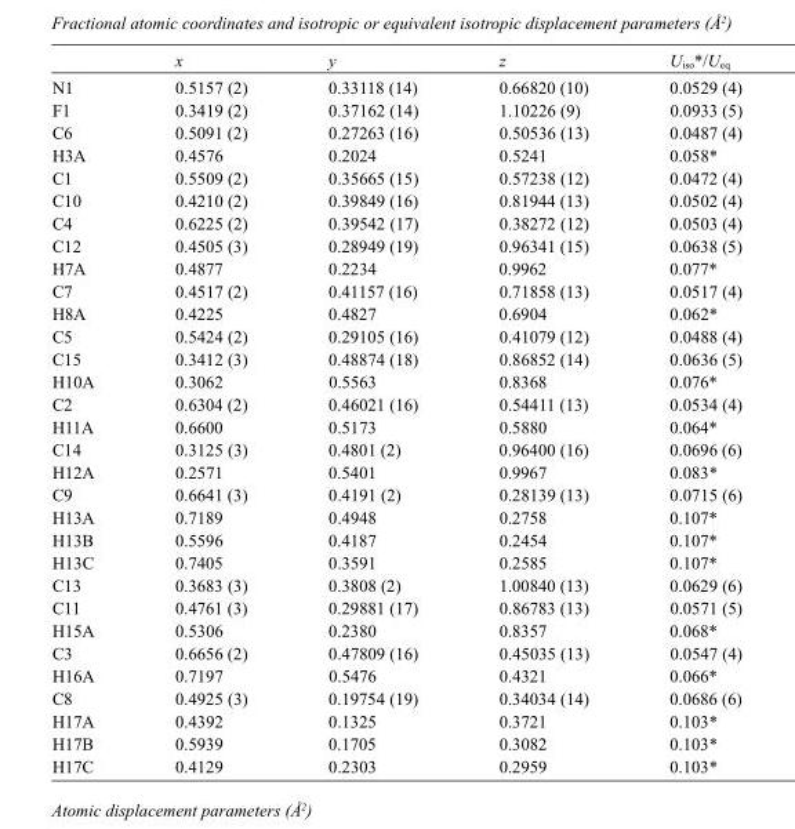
<table><thead><tr><td></td><td>x</td><td>y</td><td>z</td><td>U<sub>iso</sub>*/U<sub>eq</sub></td></tr></thead><tbody><tr><td>N1</td><td>0.5157 (2)</td><td>0.33118 (14)</td><td>0.66820 (10)</td><td>0.0529 (4)</td></tr><tr><td>F1</td><td>0.3419 (2)</td><td>0.37162 (14)</td><td>1.10226 (9)</td><td>0.0933 (5)</td></tr><tr><td>C6</td><td>0.5091 (2)</td><td>0.27263 (16)</td><td>0.50536 (13)</td><td>0.0487 (4)</td></tr><tr><td>H3A</td><td>0.4576</td><td>0.2024</td><td>0.5241</td><td>0.058*</td></tr><tr><td>C1</td><td>0.5509 (2)</td><td>0.35665 (15)</td><td>0.57238 (12)</td><td>0.0472 (4)</td></tr><tr><td>C10</td><td>0.4210 (2)</td><td>0.39849 (16)</td><td>0.81944 (13)</td><td>0.0502 (4)</td></tr><tr><td>C4</td><td>0.6225 (2)</td><td>0.39542 (17)</td><td>0.38272 (12)</td><td>0.0503 (4)</td></tr><tr><td>C12</td><td>0.4505 (3)</td><td>0.28949 (19)</td><td>0.96341 (15)</td><td>0.0638 (5)</td></tr><tr><td>H7A</td><td>0.4877</td><td>0.2234</td><td>0.9962</td><td>0.077*</td></tr><tr><td>C7</td><td>0.4517 (2)</td><td>0.41157 (16)</td><td>0.71858 (13)</td><td>0.0517 (4)</td></tr><tr><td>H8A</td><td>0.4225</td><td>0.4827</td><td>0.6904</td><td>0.062*</td></tr><tr><td>C5</td><td>0.5424 (2)</td><td>0.29105 (16)</td><td>0.41079 (12)</td><td>0.0488 (4)</td></tr><tr><td>C15</td><td>0.3412 (3)</td><td>0.48874 (18)</td><td>0.86852 (14)</td><td>0.0636 (5)</td></tr><tr><td>H10A</td><td>0.3062</td><td>0.5563</td><td>0.8368</td><td>0.076*</td></tr><tr><td>C2</td><td>0.6304 (2)</td><td>0.46021 (16)</td><td>0.54411 (13)</td><td>0.0534 (4)</td></tr><tr><td>H11A</td><td>0.6600</td><td>0.5173</td><td>0.5880</td><td>0.064*</td></tr><tr><td>C14</td><td>0.3125 (3)</td><td>0.4801 (2)</td><td>0.96400 (16)</td><td>0.0696 (6)</td></tr><tr><td>H12A</td><td>0.2571</td><td>0.5401</td><td>0.9967</td><td>0.083*</td></tr><tr><td>C9</td><td>0.6641 (3)</td><td>0.4191 (2)</td><td>0.28139 (13)</td><td>0.0715 (6)</td></tr><tr><td>H13A</td><td>0.7189</td><td>0.4948</td><td>0.2758</td><td>0.107*</td></tr><tr><td>H13B</td><td>0.5596</td><td>0.4187</td><td>0.2454</td><td>0.107*</td></tr><tr><td>H13C</td><td>0.7405</td><td>0.3591</td><td>0.2585</td><td>0.107*</td></tr><tr><td>C13</td><td>0.3683 (3)</td><td>0.3808 (2)</td><td>1.00840 (13)</td><td>0.0629 (6)</td></tr><tr><td>C11</td><td>0.4761 (3)</td><td>0.29881 (17)</td><td>0.86783 (13)</td><td>0.0571 (5)</td></tr><tr><td>H15A</td><td>0.5306</td><td>0.2380</td><td>0.8357</td><td>0.068*</td></tr><tr><td>C3</td><td>0.6656 (2)</td><td>0.47809 (16)</td><td>0.45035 (13)</td><td>0.0547 (4)</td></tr><tr><td>H16A</td><td>0.7197</td><td>0.5476</td><td>0.4321</td><td>0.066*</td></tr><tr><td>C8</td><td>0.4925 (3)</td><td>0.19754 (19)</td><td>0.34034 (14)</td><td>0.0686 (6)</td></tr><tr><td>H17A</td><td>0.4392</td><td>0.1325</td><td>0.3721</td><td>0.103*</td></tr><tr><td>H17B</td><td>0.5939</td><td>0.1705</td><td>0.3082</td><td>0.103*</td></tr><tr><td>H17C</td><td>0.4129</td><td>0.2303</td><td>0.2959</td><td>0.103*</td></tr></tbody></table>